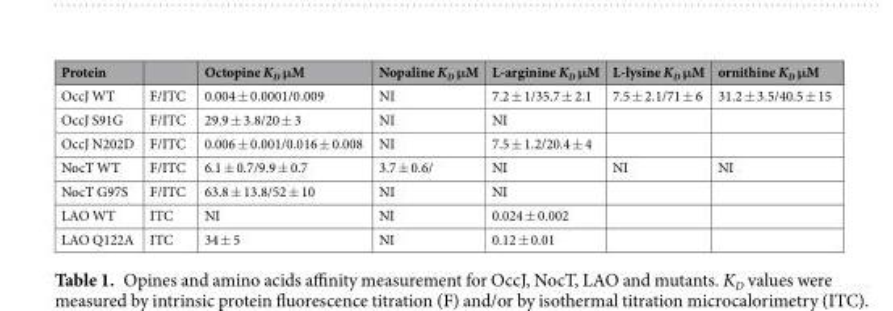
<table><thead><tr><td>Protein</td><td></td><td>Octopine K<sub>D</sub> μM</td><td>Nopaline K<sub>D</sub> μM</td><td>L-arginine K<sub>D</sub> μM</td><td>L-lysine K<sub>D</sub> μM</td><td>ornithine K<sub>D</sub> μM</td></tr></thead><tbody><tr><td>OccJ WT</td><td>F/ITC</td><td>0.004 ± 0.0001/0.009</td><td>NI</td><td>7.2 ± 1/35.7 ± 2.1</td><td>7.5 ± 2.1/71 ± 6</td><td>31.2 ± 3.5/40.5 ± 15</td></tr><tr><td>OccJ S91G</td><td>F/ITC</td><td>29.9 ± 3.8/20 ± 3</td><td>NI</td><td>NI</td><td></td><td></td></tr><tr><td>OccJ N202D</td><td>F/ITC</td><td>0.006 ± 0.001/0.016 ± 0.008</td><td>NI</td><td>7.5 ± 1.2/20.4 ± 4</td><td></td><td></td></tr><tr><td>NocT WT</td><td>F/ITC</td><td>6.1 ± 0.7/9.9 ± 0.7</td><td>3.7 ± 0.6/</td><td>NI</td><td>NI</td><td>NI</td></tr><tr><td>NocT G97S</td><td>F/ITC</td><td>63.8 ± 13.8/52 ± 10</td><td>NI</td><td>NI</td><td></td><td></td></tr><tr><td>LAO WT</td><td>ITC</td><td>NI</td><td>NI</td><td>0.024 ± 0.002</td><td></td><td></td></tr><tr><td>LAO Q122A</td><td>ITC</td><td>34 ± 5</td><td>NI</td><td>0.12 ± 0.01</td><td></td><td></td></tr></tbody></table>